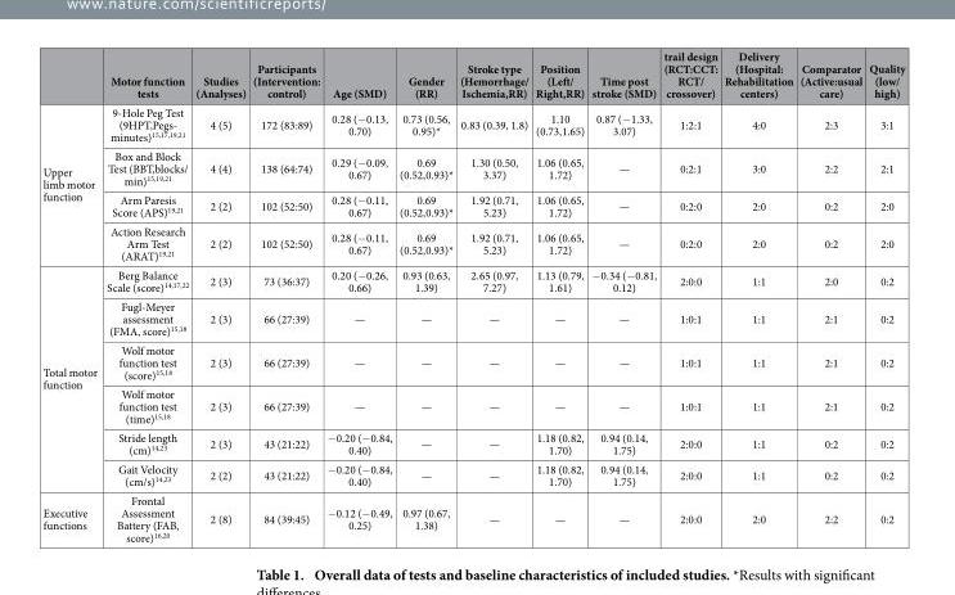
<table><thead><tr><td></td><td>Motor function tests</td><td>Studies (Analyses)</td><td>Participants (Intervention: control)</td><td>Age (SMD)</td><td>Gender (RR)</td><td>Stroke type (Hemorrhage/ Ischemia,RR)</td><td>Position (Left/ Right,RR)</td><td>Time post stroke (SMD)</td><td>trail design (RCT:CCT: RCT/ crossover)</td><td>Delivery (Hospital: Rehabilitation centers)</td><td>Comparator (Active:usual care)</td><td>Quality (low/ high)</td></tr></thead><tbody><tr><td rowspan="4">Upper limb motor function</td><td>9-Hole Peg Test (9HPT,Pegs- minutes)<sup>15</sup>,<sup>17</sup>,<sup>19</sup>,<sup>21</sup></td><td>4 (5)</td><td>172 (83:89)</td><td>0.28 (− 0.13, 0.70)</td><td>0.73 (0.56, 0.95)*</td><td>0.83 (0.39, 1.8)</td><td>1.10 (0.73,1.65)</td><td>0.87 (− 1.33, 3.07)</td><td>1:2:1</td><td>4:0</td><td>2:3</td><td>3:1</td></tr><tr><td>Box and Block Test (BBT,blocks/ min)<sup>15</sup>,<sup>19</sup>,<sup>21</sup></td><td>4 (4)</td><td>138 (64:74)</td><td>0.29 (− 0.09, 0.67)</td><td>0.69 (0.52,0.93)*</td><td>1.30 (0.50, 3.37)</td><td>1.06 (0.65, 1.72)</td><td>—</td><td>0:2:1</td><td>3:0</td><td>2:2</td><td>2:1</td></tr><tr><td>Arm Paresis Score (APS)<sup>19</sup>,<sup>21</sup></td><td>2 (2)</td><td>102 (52:50)</td><td>0.28 (− 0.11, 0.67)</td><td>0.69 (0.52,0.93)*</td><td>1.92 (0.71, 5.23)</td><td>1.06 (0.65, 1.72)</td><td>—</td><td>0:2:0</td><td>2:0</td><td>0:2</td><td>2:0</td></tr><tr><td>Action Research Arm Test (ARAT)<sup>19</sup>,<sup>21</sup></td><td>2 (2)</td><td>102 (52:50)</td><td>0.28 (− 0.11, 0.67)</td><td>0.69 (0.52,0.93)*</td><td>1.92 (0.71, 5.23)</td><td>1.06 (0.65, 1.72)</td><td>—</td><td>0:2:0</td><td>2:0</td><td>0:2</td><td>2:0</td></tr><tr><td rowspan="6">Total motor function</td><td>Berg Balance Scale (score)<sup>14</sup>,<sup>17</sup>,<sup>22</sup></td><td>2 (3)</td><td>73 (36:37)</td><td>0.20 (− 0.26, 0.66)</td><td>0.93 (0.63, 1.39)</td><td>2.65 (0.97, 7.27)</td><td>1.13 (0.79, 1.61)</td><td>− 0.34 (− 0.81, 0.12)</td><td>2:0:0</td><td>1:1</td><td>2:0</td><td>0:2</td></tr><tr><td>Fugl-Meyer assessment (FMA, score)<sup>15</sup>,<sup>18</sup></td><td>2 (3)</td><td>66 (27:39)</td><td>—</td><td>—</td><td>—</td><td>—</td><td>—</td><td>1:0:1</td><td>1:1</td><td>2:1</td><td>0:2</td></tr><tr><td>Wolf motor function test (score)<sup>15</sup>,<sup>18</sup></td><td>2 (3)</td><td>66 (27:39)</td><td>—</td><td>—</td><td>—</td><td>—</td><td>—</td><td>1:0:1</td><td>1:1</td><td>2:1</td><td>0:2</td></tr><tr><td>Wolf motor function test (time)<sup>15</sup>,<sup>18</sup></td><td>2 (3)</td><td>66 (27:39)</td><td>—</td><td>—</td><td>—</td><td>—</td><td>—</td><td>1:0:1</td><td>1:1</td><td>2:1</td><td>0:2</td></tr><tr><td>Stride length (cm)<sup>14</sup>,<sup>23</sup></td><td>2 (3)</td><td>43 (21:22)</td><td>− 0.20 (− 0.84, 0.40)</td><td>—</td><td>—</td><td>1.18 (0.82, 1.70)</td><td>0.94 (0.14, 1.75)</td><td>2:0:0</td><td>1:1</td><td>0:2</td><td>0:2</td></tr><tr><td>Gait Velocity (cm/s)<sup>14</sup>,<sup>23</sup></td><td>2 (2)</td><td>43 (21:22)</td><td>− 0.20 (− 0.84, 0.40)</td><td>—</td><td>—</td><td>1.18 (0.82, 1.70)</td><td>0.94 (0.14, 1.75)</td><td>2:0:0</td><td>1:1</td><td>0:2</td><td>0:2</td></tr><tr><td>Executive functions</td><td>Frontal Assessment Battery (FAB, score)<sup>16</sup>,<sup>20</sup></td><td>2 (8)</td><td>84 (39:45)</td><td>− 0.12 (− 0.49, 0.25)</td><td>0.97 (0.67, 1.38)</td><td>—</td><td>—</td><td>—</td><td>2:0:0</td><td>2:0</td><td>2:2</td><td>0:2</td></tr></tbody></table>